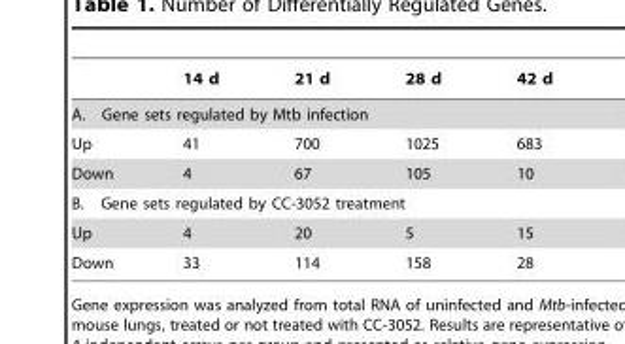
<table><thead><tr><td></td><td>14 d</td><td>21 d</td><td>28 d</td><td>42 d</td></tr></thead><tbody><tr><td colspan="5">A. Gene sets regulated by Mtb infection</td></tr><tr><td>Up</td><td>41</td><td>700</td><td>1025</td><td>683</td></tr><tr><td>Down</td><td>4</td><td>67</td><td>105</td><td>10</td></tr><tr><td colspan="5">B. Gene sets regulated by CC-3052 treatment</td></tr><tr><td>Up</td><td>4</td><td>20</td><td>5</td><td>15</td></tr><tr><td>Down</td><td>33</td><td>114</td><td>158</td><td>28</td></tr></tbody></table>